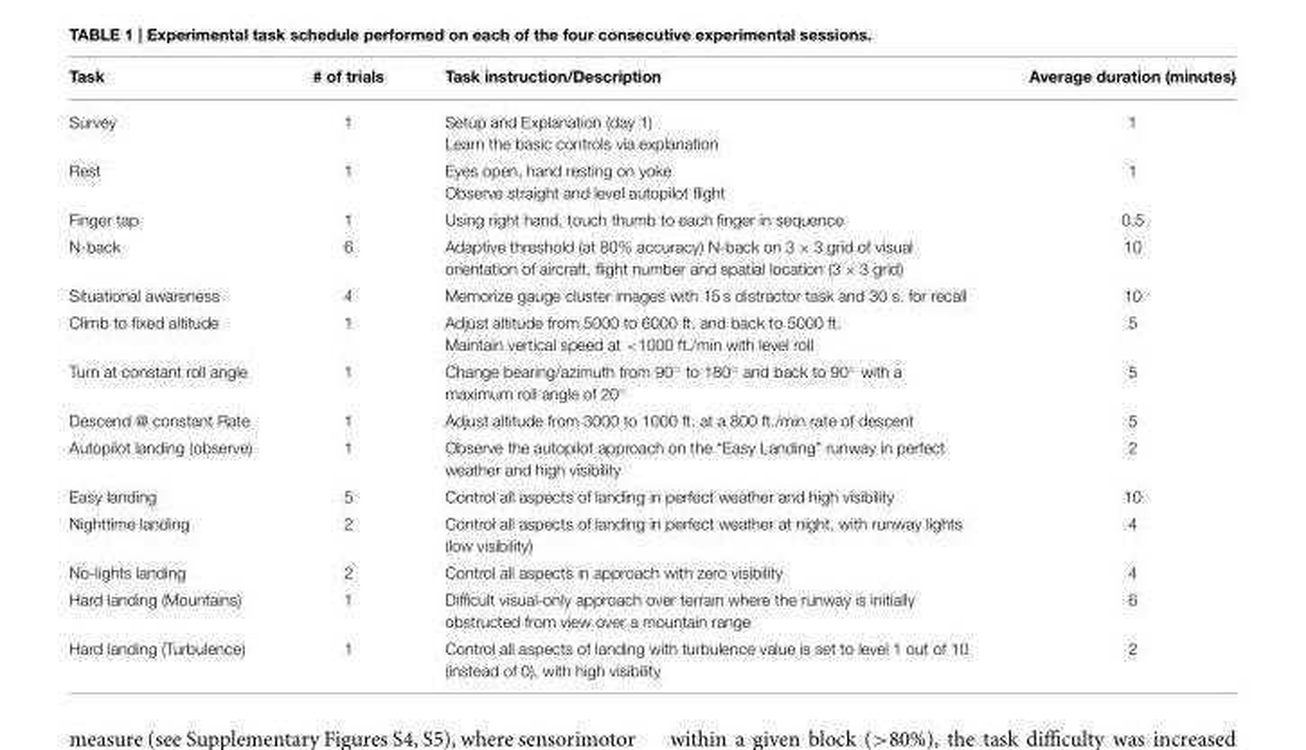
<table><thead><tr><td>Task</td><td># of trials</td><td>Task instruction/Description</td><td>Average duration (minutes)</td></tr></thead><tbody><tr><td>Survey</td><td>1</td><td>Setup and Explanation (day 1) Learn the basic controls via explanation</td><td>1</td></tr><tr><td>Rest</td><td>1</td><td>Eyes open, hand resting on yoke Observe straight and level autopilot flight</td><td>1</td></tr><tr><td>Finger tap</td><td>1</td><td>Using right hand, touch thumb to each finger in sequence</td><td>0.5</td></tr><tr><td>N-back</td><td>6</td><td>Adaptive threshold (at 80% accuracy) N-back on 3 × 3 grid of visual orientation of aircraft, flight number and spatial location (3 × 3 grid)</td><td>10</td></tr><tr><td>Situational awareness</td><td>4</td><td>Memorize gauge cluster images with 15 s distractor task and 30 s. for recall</td><td>10</td></tr><tr><td>Climb to fixed altitude</td><td>1</td><td>Adjust altitude from 5000 to 6000 ft. and back to 5000 ft. Maintain vertical speed at &lt;1000 ft./min with level roll</td><td>5</td></tr><tr><td>Turn at constant roll angle</td><td>1</td><td>Change bearing/azimuth from 90◦ to 180◦ and back to 90◦ with a maximum roll angle of 20◦</td><td>5</td></tr><tr><td>Descend @ constant Rate</td><td>1</td><td>Adjust altitude from 3000 to 1000 ft. at a 800 ft./min rate of descent</td><td>5</td></tr><tr><td>Autopilot landing (observe)</td><td>1</td><td>Observe the autopilot approach on the “Easy Landing” runway in perfect weather and high visibility</td><td>2</td></tr><tr><td>Easy landing</td><td>5</td><td>Control all aspects of landing in perfect weather and high visibility</td><td>10</td></tr><tr><td>Nighttime landing</td><td>2</td><td>Control all aspects of landing in perfect weather at night, with runway lights (low visibility)</td><td>4</td></tr><tr><td>No-lights landing</td><td>2</td><td>Control all aspects in approach with zero visibility</td><td>4</td></tr><tr><td>Hard landing (Mountains)</td><td>1</td><td>Difficult visual-only approach over terrain where the runway is initially obstructed from view over a mountain range</td><td>6</td></tr><tr><td>Hard landing (Turbulence)</td><td>1</td><td>Control all aspects of landing with turbulence value is set to level 1 out of 10 (instead of 0), with high visibility</td><td>2</td></tr></tbody></table>